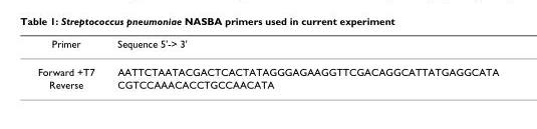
<table><thead><tr><td>Primer</td><td>Sequence 5&#x27;-&gt; 3&#x27;</td></tr></thead><tbody><tr><td>Forward +T7</td><td>AATTCTAATACGACTCACTATAGGGAGAAGGTTCGACAGGCATTATGAGGCATA</td></tr><tr><td>Reverse</td><td>CGTCCAAACACCTGCCAACATA</td></tr></tbody></table>